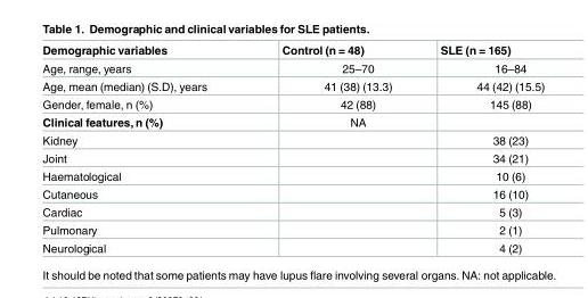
<table><thead><tr><td>Demographic variables</td><td>Control (n = 48)</td><td>SLE (n = 165)</td></tr></thead><tbody><tr><td>Age, range, years</td><td>25–70</td><td>16–84</td></tr><tr><td>Age, mean (median) (S.D), years</td><td>41 (38) (13.3)</td><td>44 (42) (15.5)</td></tr><tr><td>Gender, female, n (%)</td><td>42 (88)</td><td>145 (88)</td></tr><tr><td>Clinical features, n (%)</td><td>NA</td><td></td></tr><tr><td>Kidney</td><td></td><td>38 (23)</td></tr><tr><td>Joint</td><td></td><td>34 (21)</td></tr><tr><td>Haematological</td><td></td><td>10 (6)</td></tr><tr><td>Cutaneous</td><td></td><td>16 (10)</td></tr><tr><td>Cardiac</td><td></td><td>5 (3)</td></tr><tr><td>Pulmonary</td><td></td><td>2 (1)</td></tr><tr><td>Neurological</td><td></td><td>4 (2)</td></tr></tbody></table>